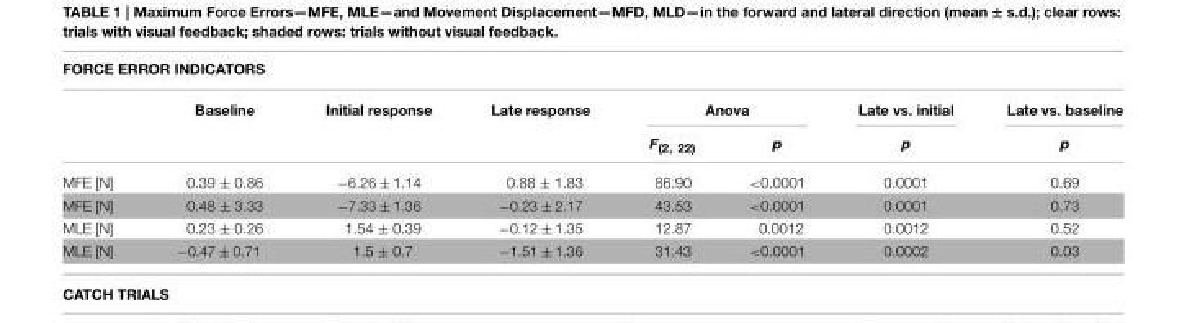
<table><thead><tr><td colspan="8">FORCE ERROR INDICATORS</td></tr><tr><td rowspan="2"></td><td rowspan="2">Baseline</td><td rowspan="2">Initial response</td><td rowspan="2">Late response</td><td colspan="2">Anova</td><td rowspan="2">Late vs. initial p</td><td rowspan="2">Late vs. baseline p</td></tr><tr><td>F<sub>(2, 22)</sub></td><td>p</td></tr></thead><tbody><tr><td>MFE [N]</td><td>0.39 ± 0.86</td><td>−6.26 ± 1.14</td><td>0.88 ± 1.83</td><td>86.90</td><td>&lt;0.0001</td><td>0.0001</td><td>0.69</td></tr><tr><td>MFE [N]</td><td>0.48 ± 3.33</td><td>−7.33 ± 1.36</td><td>−0.23 ± 2.17</td><td>43.53</td><td>&lt;0.0001</td><td>0.0001</td><td>0.73</td></tr><tr><td>MLE [N]</td><td>0.23 ± 0.26</td><td>1.54 ± 0.39</td><td>−0.12 ± 1.35</td><td>12.87</td><td>0.0012</td><td>0.0012</td><td>0.52</td></tr><tr><td>MLE [N]</td><td>−0.47 ± 0.71</td><td>1.5 ± 0.7</td><td>−1.51 ± 1.36</td><td>31.43</td><td>&lt;0.0001</td><td>0.0002</td><td>0.03</td></tr></tbody></table>